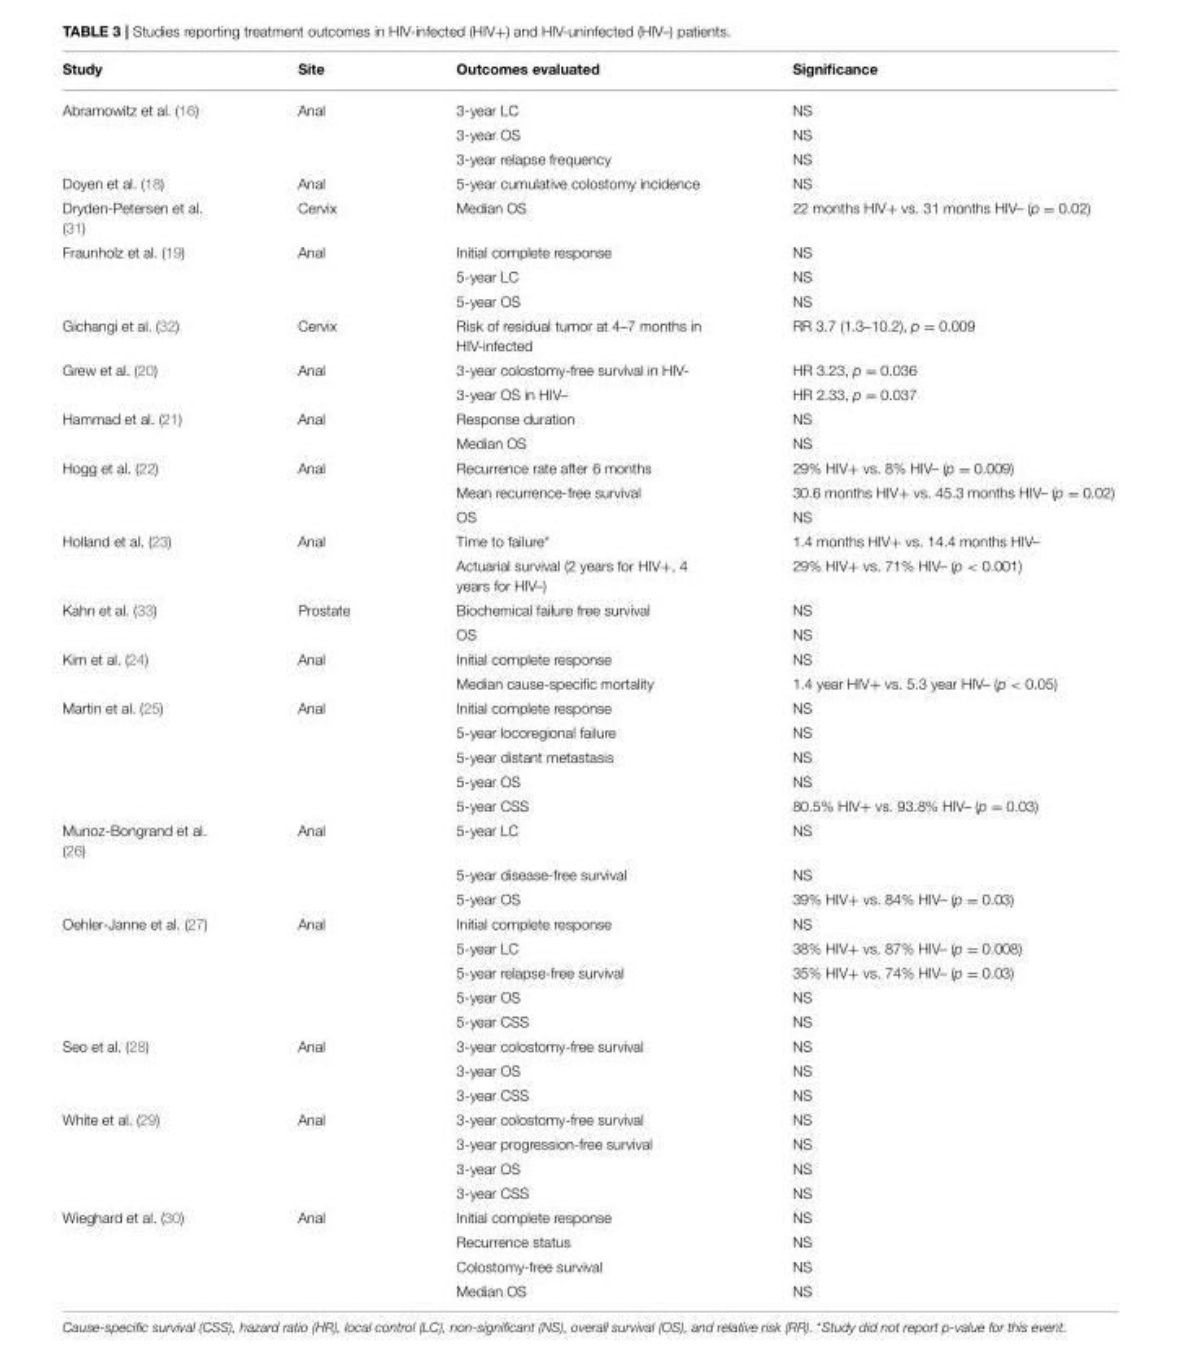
<table><thead><tr><td>Study</td><td>Site</td><td>Outcomes evaluated</td><td>Significance</td></tr></thead><tbody><tr><td rowspan="3">Abramowitz et al. (16)</td><td>Anal</td><td>3-year LC</td><td>NS</td></tr><tr><td></td><td>3-year OS</td><td>NS</td></tr><tr><td></td><td>3-year relapse frequency</td><td>NS</td></tr><tr><td>Doyen et al. (18)</td><td>Anal</td><td>5-year cumulative colostomy incidence</td><td>NS</td></tr><tr><td>Dryden-Petersen et al. (31)</td><td>Cervix</td><td>Median OS</td><td>22 months HIV+ vs. 31 months HIV– (p = 0.02)</td></tr><tr><td rowspan="3">Fraunholz et al. (19)</td><td>Anal</td><td>Initial complete response</td><td>NS</td></tr><tr><td></td><td>5-year LC</td><td>NS</td></tr><tr><td></td><td>5-year OS</td><td>NS</td></tr><tr><td>Gichangi et al. (32)</td><td>Cervix</td><td>Risk of residual tumor at 4–7 months in HIV-infected</td><td>RR 3.7 (1.3–10.2), p = 0.009</td></tr><tr><td rowspan="2">Grew et al. (20)</td><td>Anal</td><td>3-year colostomy-free survival in HIV-</td><td>HR 3.23, p = 0.036</td></tr><tr><td></td><td>3-year OS in HIV–</td><td>HR 2.33, p = 0.037</td></tr><tr><td rowspan="2">Hammad et al. (21)</td><td>Anal</td><td>Response duration</td><td>NS</td></tr><tr><td></td><td>Median OS</td><td>NS</td></tr><tr><td rowspan="3">Hogg et al. (22)</td><td>Anal</td><td>Recurrence rate after 6 months</td><td>29% HIV+ vs. 8% HIV– (p = 0.009)</td></tr><tr><td></td><td>Mean recurrence-free survival</td><td>30.6 months HIV+ vs. 45.3 months HIV– (p = 0.02)</td></tr><tr><td></td><td>OS</td><td>NS</td></tr><tr><td rowspan="2">Holland et al. (23)</td><td>Anal</td><td>Time to failure*</td><td>1.4 months HIV+ vs. 14.4 months HIV–</td></tr><tr><td></td><td>Actuarial survival (2 years for HIV+, 4 years for HIV–)</td><td>29% HIV+ vs. 71% HIV– (p &lt; 0.001)</td></tr><tr><td rowspan="2">Kahn et al. (33)</td><td>Prostate</td><td>Biochemical failure free survival</td><td>NS</td></tr><tr><td></td><td>OS</td><td>NS</td></tr><tr><td rowspan="2">Kim et al. (24)</td><td>Anal</td><td>Initial complete response</td><td>NS</td></tr><tr><td></td><td>Median cause-specific mortality</td><td>1.4 year HIV+ vs. 5.3 year HIV– (p &lt; 0.05)</td></tr><tr><td rowspan="5">Martin et al. (25)</td><td>Anal</td><td>Initial complete response</td><td>NS</td></tr><tr><td></td><td>5-year locoregional failure</td><td>NS</td></tr><tr><td></td><td>5-year distant metastasis</td><td>NS</td></tr><tr><td></td><td>5-year OS</td><td>NS</td></tr><tr><td></td><td>5-year CSS</td><td>80.5% HIV+ vs. 93.8% HIV– (p = 0.03)</td></tr><tr><td rowspan="3">Munoz-Bongrand et al. (26)</td><td>Anal</td><td>5-year LC</td><td>NS</td></tr><tr><td></td><td>5-year disease-free survival</td><td>NS</td></tr><tr><td></td><td>5-year OS</td><td>39% HIV+ vs. 84% HIV– (p = 0.03)</td></tr><tr><td rowspan="5">Oehler-Janne et al. (27)</td><td>Anal</td><td>Initial complete response</td><td>NS</td></tr><tr><td></td><td>5-year LC</td><td>38% HIV+ vs. 87% HIV– (p = 0.008)</td></tr><tr><td></td><td>5-year relapse-free survival</td><td>35% HIV+ vs. 74% HIV– (p = 0.03)</td></tr><tr><td></td><td>5-year OS</td><td>NS</td></tr><tr><td></td><td>5-year CSS</td><td>NS</td></tr><tr><td rowspan="3">Seo et al. (28)</td><td>Anal</td><td>3-year colostomy-free survival</td><td>NS</td></tr><tr><td></td><td>3-year OS</td><td>NS</td></tr><tr><td></td><td>3-year CSS</td><td>NS</td></tr><tr><td rowspan="4">White et al. (29)</td><td>Anal</td><td>3-year colostomy-free survival</td><td>NS</td></tr><tr><td></td><td>3-year progression-free survival</td><td>NS</td></tr><tr><td></td><td>3-year OS</td><td>NS</td></tr><tr><td></td><td>3-year CSS</td><td>NS</td></tr><tr><td rowspan="4">Wieghard et al. (30)</td><td>Anal</td><td>Initial complete response</td><td>NS</td></tr><tr><td></td><td>Recurrence status</td><td>NS</td></tr><tr><td></td><td>Colostomy-free survival</td><td>NS</td></tr><tr><td></td><td>Median OS</td><td>NS</td></tr></tbody></table>